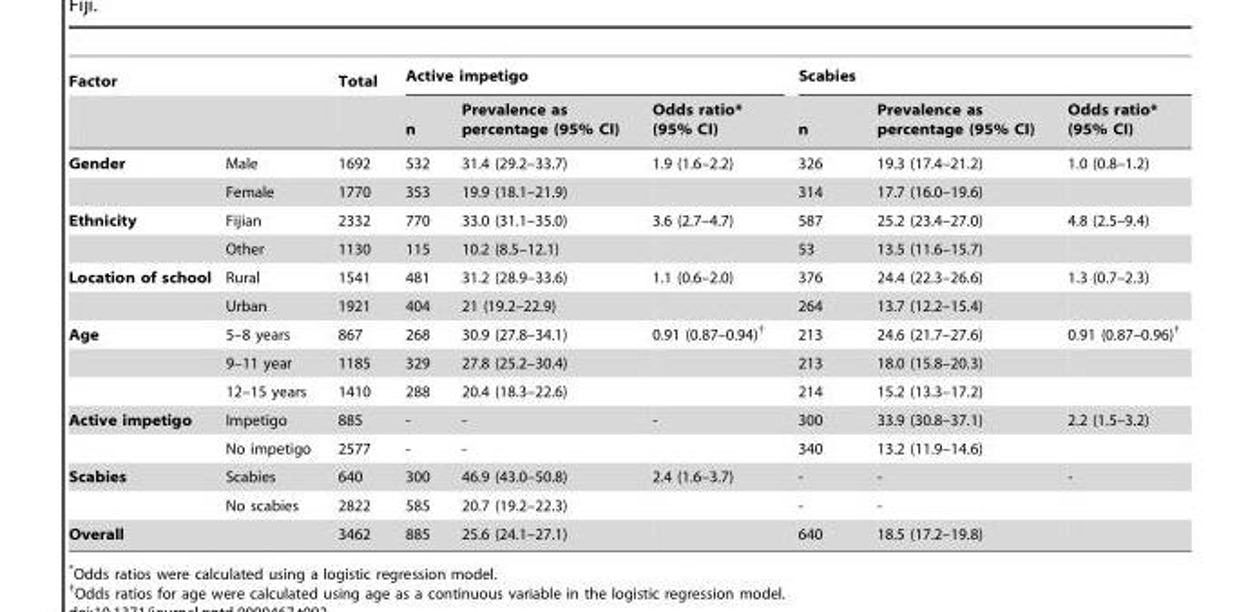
<table><thead><tr><td colspan="2">Factor</td><td rowspan="2">Total</td><td colspan="3">Active impetigo</td><td colspan="3">Scabies</td></tr><tr><td></td><td></td><td>n</td><td>Prevalence as percentage (95% CI)</td><td>Odds ratio* (95% CI)</td><td>n</td><td>Prevalence as percentage (95% CI)</td><td>Odds ratio* (95% CI)</td></tr></thead><tbody><tr><td rowspan="2">Gender</td><td>Male</td><td>1692</td><td>532</td><td>31.4 (29.2–33.7)</td><td>1.9 (1.6–2.2)</td><td>326</td><td>19.3 (17.4–21.2)</td><td>1.0 (0.8–1.2)</td></tr><tr><td>Female</td><td>1770</td><td>353</td><td>19.9 (18.1–21.9)</td><td></td><td>314</td><td>17.7 (16.0–19.6)</td><td></td></tr><tr><td rowspan="2">Ethnicity</td><td>Fijian</td><td>2332</td><td>770</td><td>33.0 (31.1–35.0)</td><td>3.6 (2.7–4.7)</td><td>587</td><td>25.2 (23.4–27.0)</td><td>4.8 (2.5–9.4)</td></tr><tr><td>Other</td><td>1130</td><td>115</td><td>10.2 (8.5–12.1)</td><td></td><td>53</td><td>13.5 (11.6–15.7)</td><td></td></tr><tr><td rowspan="2">Location of school</td><td>Rural</td><td>1541</td><td>481</td><td>31.2 (28.9–33.6)</td><td>1.1 (0.6–2.0)</td><td>376</td><td>24.4 (22.3–26.6)</td><td>1.3 (0.7–2.3)</td></tr><tr><td>Urban</td><td>1921</td><td>404</td><td>21 (19.2–22.9)</td><td></td><td>264</td><td>13.7 (12.2–15.4)</td><td></td></tr><tr><td rowspan="3">Age</td><td>5–8 years</td><td>867</td><td>268</td><td>30.9 (27.8–34.1)</td><td>0.91 (0.87–0.94)†</td><td>213</td><td>24.6 (21.7–27.6)</td><td>0.91 (0.87–0.96)†</td></tr><tr><td>9–11 year</td><td>1185</td><td>329</td><td>27.8 (25.2–30.4)</td><td></td><td>213</td><td>18.0 (15.8–20.3)</td><td></td></tr><tr><td>12–15 years</td><td>1410</td><td>288</td><td>20.4 (18.3–22.6)</td><td></td><td>214</td><td>15.2 (13.3–17.2)</td><td></td></tr><tr><td rowspan="2">Active impetigo</td><td>Impetigo</td><td>885</td><td>-</td><td>-</td><td>-</td><td>300</td><td>33.9 (30.8–37.1)</td><td>2.2 (1.5–3.2)</td></tr><tr><td>No impetigo</td><td>2577</td><td>-</td><td>-</td><td></td><td>340</td><td>13.2 (11.9–14.6)</td><td></td></tr><tr><td rowspan="2">Scabies</td><td>Scabies</td><td>640</td><td>300</td><td>46.9 (43.0–50.8)</td><td>2.4 (1.6–3.7)</td><td>-</td><td>-</td><td>-</td></tr><tr><td>No scabies</td><td>2822</td><td>585</td><td>20.7 (19.2–22.3)</td><td></td><td>-</td><td>-</td><td></td></tr><tr><td colspan="2">Overall</td><td>3462</td><td>885</td><td>25.6 (24.1–27.1)</td><td></td><td>640</td><td>18.5 (17.2–19.8)</td><td></td></tr></tbody></table>